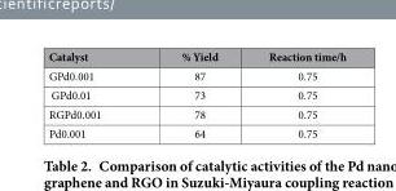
<table><thead><tr><td>Catalyst</td><td>% Yield</td><td>Reaction time/h</td></tr></thead><tbody><tr><td>GPd0.001</td><td>87</td><td>0.75</td></tr><tr><td>GPd0.01</td><td>73</td><td>0.75</td></tr><tr><td>RGPd0.001</td><td>78</td><td>0.75</td></tr><tr><td>Pd0.001</td><td>64</td><td>0.75</td></tr></tbody></table>